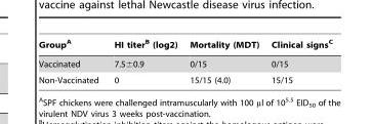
<table><thead><tr><td>Group<sup>A</sup></td><td>HI titer<sup>B</sup> (log2)</td><td>Mortality (MDT)</td><td>Clinical signs<sup>C</sup></td></tr></thead><tbody><tr><td>Vaccinated</td><td>7.5±0.9</td><td>0/15</td><td>0/15</td></tr><tr><td>Non-Vaccinated</td><td>0</td><td>15/15 (4.0)</td><td>15/15</td></tr></tbody></table>